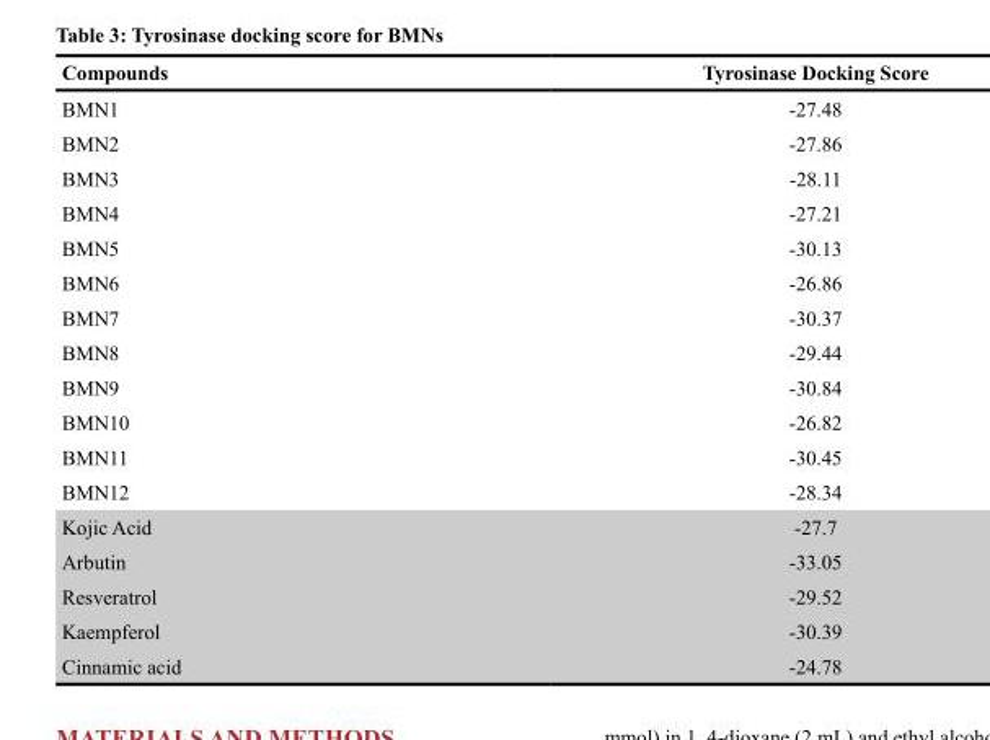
<table><thead><tr><td>Compounds</td><td>Tyrosinase Docking Score</td></tr></thead><tbody><tr><td>BMN1</td><td>-27.48</td></tr><tr><td>BMN2</td><td>-27.86</td></tr><tr><td>BMN3</td><td>-28.11</td></tr><tr><td>BMN4</td><td>-27.21</td></tr><tr><td>BMN5</td><td>-30.13</td></tr><tr><td>BMN6</td><td>-26.86</td></tr><tr><td>BMN7</td><td>-30.37</td></tr><tr><td>BMN8</td><td>-29.44</td></tr><tr><td>BMN9</td><td>-30.84</td></tr><tr><td>BMN10</td><td>-26.82</td></tr><tr><td>BMN11</td><td>-30.45</td></tr><tr><td>BMN12</td><td>-28.34</td></tr><tr><td>Kojic Acid</td><td>-27.7</td></tr><tr><td>Arbutin</td><td>-33.05</td></tr><tr><td>Resveratrol</td><td>-29.52</td></tr><tr><td>Kaempferol</td><td>-30.39</td></tr><tr><td>Cinnamic acid</td><td>-24.78</td></tr></tbody></table>